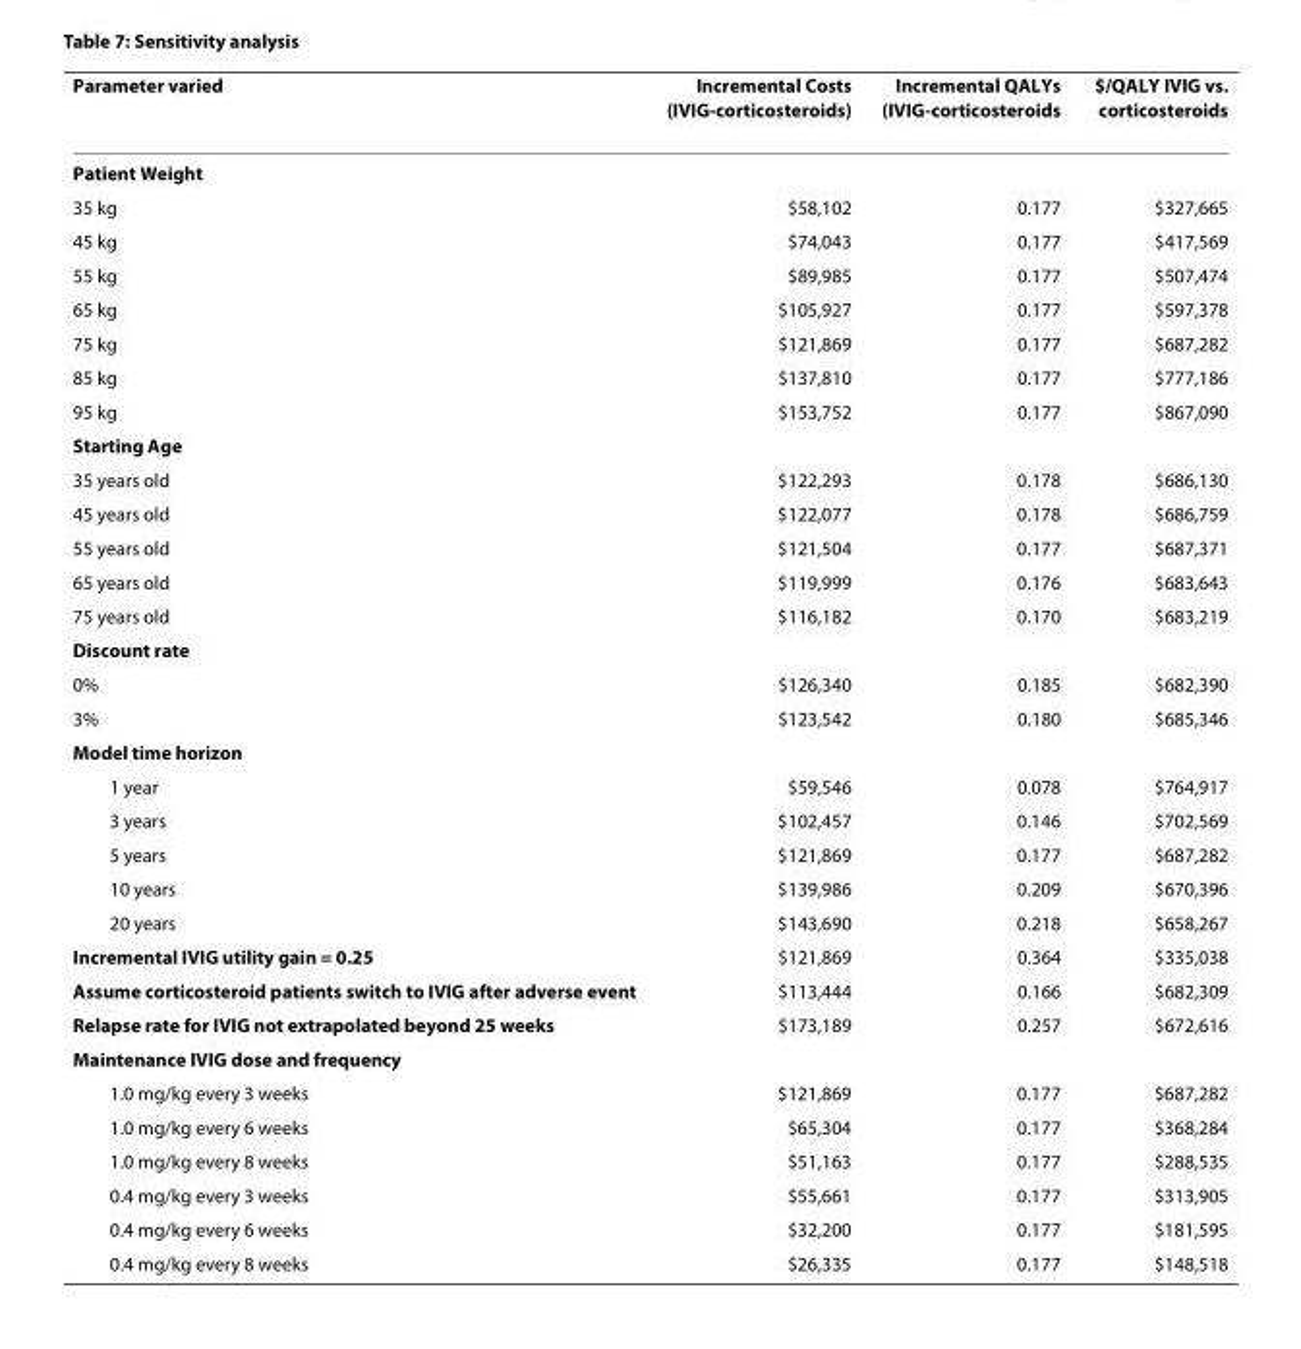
<table><thead><tr><td>Parameter varied</td><td>Incremental Costs (IVIG-corticosteroids)</td><td>Incremental QALYs (IVIG-corticosteroids</td><td>$/QALY IVIG vs. corticosteroids</td></tr></thead><tbody><tr><td colspan="4">Patient Weight</td></tr><tr><td>35 kg</td><td>$58,102</td><td>0.177</td><td>$327,665</td></tr><tr><td>45 kg</td><td>$74,043</td><td>0.177</td><td>$417,569</td></tr><tr><td>55 kg</td><td>$89,985</td><td>0.177</td><td>$507,474</td></tr><tr><td>65 kg</td><td>$105,927</td><td>0.177</td><td>$597,378</td></tr><tr><td>75 kg</td><td>$121,869</td><td>0.177</td><td>$687,282</td></tr><tr><td>85 kg</td><td>$137,810</td><td>0.177</td><td>$777,186</td></tr><tr><td>95 kg</td><td>$153,752</td><td>0.177</td><td>$867,090</td></tr><tr><td colspan="4">Starting Age</td></tr><tr><td>35 years old</td><td>$122,293</td><td>0.178</td><td>$686,130</td></tr><tr><td>45 years old</td><td>$122,077</td><td>0.178</td><td>$686,759</td></tr><tr><td>55 years old</td><td>$121,504</td><td>0.177</td><td>$687,371</td></tr><tr><td>65 years old</td><td>$119,999</td><td>0.176</td><td>$683,643</td></tr><tr><td>75 years old</td><td>$116,182</td><td>0.170</td><td>$683,219</td></tr><tr><td colspan="4">Discount rate</td></tr><tr><td>0%</td><td>$126,340</td><td>0.185</td><td>$682,390</td></tr><tr><td>3%</td><td>$123,542</td><td>0.180</td><td>$685,346</td></tr><tr><td colspan="4">Model time horizon</td></tr><tr><td>1 year</td><td>$59,546</td><td>0.078</td><td>$764,917</td></tr><tr><td>3 years</td><td>$102,457</td><td>0.146</td><td>$702,569</td></tr><tr><td>5 years</td><td>$121,869</td><td>0.177</td><td>$687,282</td></tr><tr><td>10 years</td><td>$139,986</td><td>0.209</td><td>$670,396</td></tr><tr><td>20 years</td><td>$143,690</td><td>0.218</td><td>$658,267</td></tr><tr><td>Incremental IVIG utility gain = 0.25</td><td>$121,869</td><td>0.364</td><td>$335,038</td></tr><tr><td>Assume corticosteroid patients switch to IVIG after adverse event</td><td>$113,444</td><td>0.166</td><td>$682,309</td></tr><tr><td>Relapse rate for IVIG not extrapolated beyond 25 weeks</td><td>$173,189</td><td>0.257</td><td>$672,616</td></tr><tr><td colspan="4">Maintenance IVIG dose and frequency</td></tr><tr><td>1.0 mg/kg every 3 weeks</td><td>$121,869</td><td>0.177</td><td>$687,282</td></tr><tr><td>1.0 mg/kg every 6 weeks</td><td>$65,304</td><td>0.177</td><td>$368,284</td></tr><tr><td>1.0 mg/kg every 8 weeks</td><td>$51,163</td><td>0.177</td><td>$288,535</td></tr><tr><td>0.4 mg/kg every 3 weeks</td><td>$55,661</td><td>0.177</td><td>$313,905</td></tr><tr><td>0.4 mg/kg every 6 weeks</td><td>$32,200</td><td>0.177</td><td>$181,595</td></tr><tr><td>0.4 mg/kg every 8 weeks</td><td>$26,335</td><td>0.177</td><td>$148,518</td></tr></tbody></table>